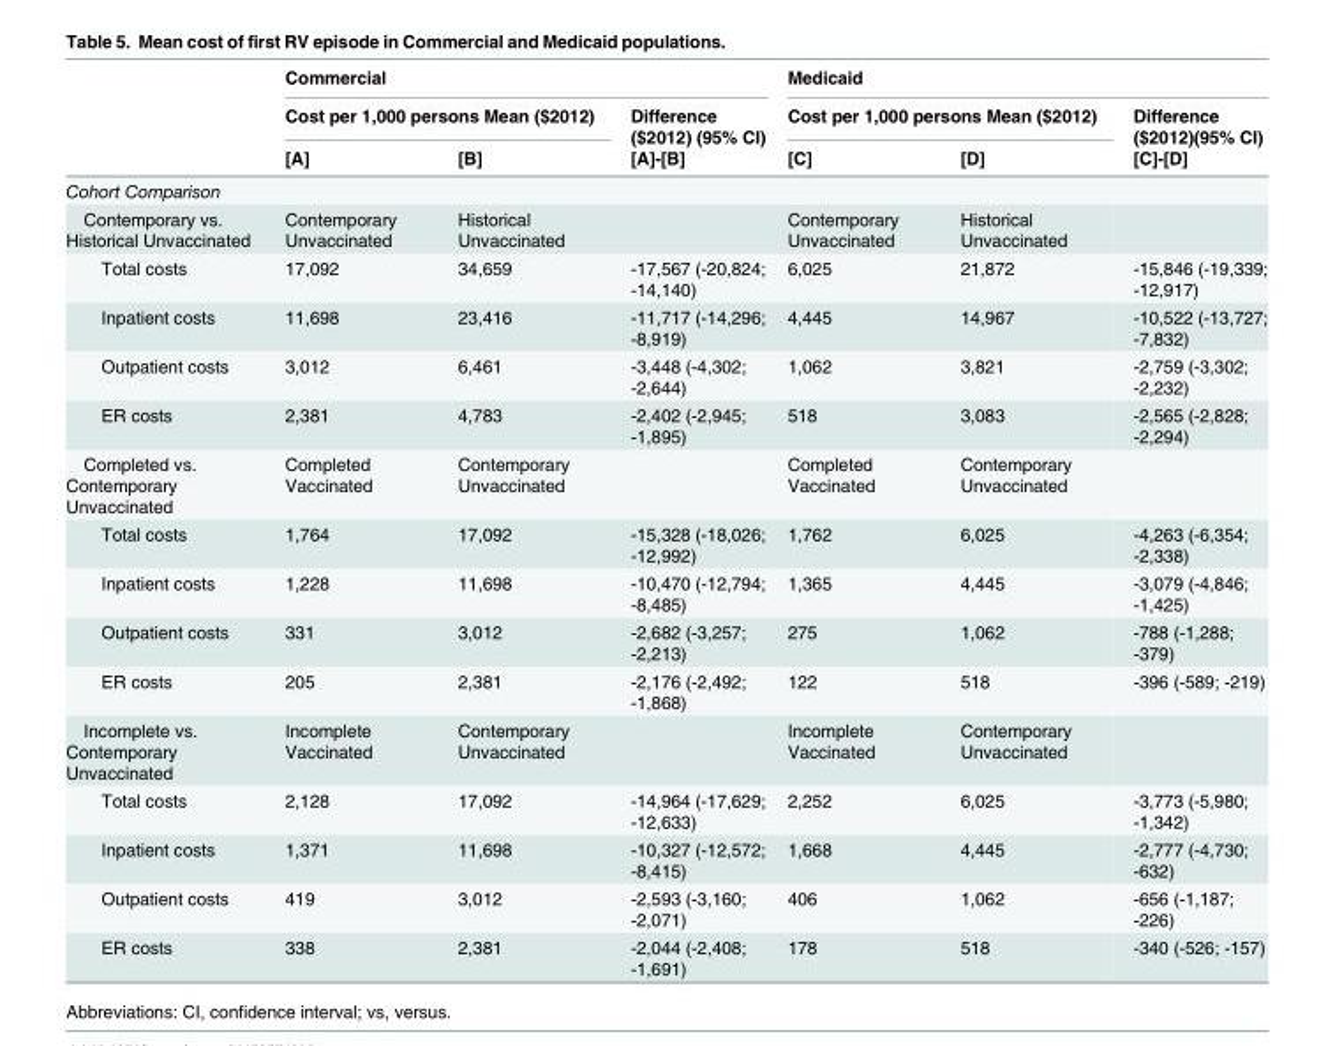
<table><thead><tr><td rowspan="3"></td><td colspan="3">Commercial</td><td colspan="3">Medicaid</td></tr><tr><td colspan="2">Cost per 1,000 persons Mean ($2012)</td><td rowspan="2">Difference ($2012) (95% CI) [A]-[B]</td><td colspan="2">Cost per 1,000 persons Mean ($2012)</td><td rowspan="2">Difference ($2012)(95% CI) [C]-[D]</td></tr><tr><td>[A]</td><td>[B]</td><td>[C]</td><td>[D]</td></tr></thead><tbody><tr><td colspan="7">Cohort Comparison</td></tr><tr><td>Contemporary vs. Historical Unvaccinated</td><td>Contemporary Unvaccinated</td><td>Historical Unvaccinated</td><td></td><td>Contemporary Unvaccinated</td><td>Historical Unvaccinated</td><td></td></tr><tr><td>Total costs</td><td>17,092</td><td>34,659</td><td>-17,567 (-20,824; -14,140)</td><td>6,025</td><td>21,872</td><td>-15,846 (-19,339; -12,917)</td></tr><tr><td>Inpatient costs</td><td>11,698</td><td>23,416</td><td>-11,717 (-14,296; -8,919)</td><td>4,445</td><td>14,967</td><td>-10,522 (-13,727; -7,832)</td></tr><tr><td>Outpatient costs</td><td>3,012</td><td>6,461</td><td>-3,448 (-4,302; -2,644)</td><td>1,062</td><td>3,821</td><td>-2,759 (-3,302; -2,232)</td></tr><tr><td>ER costs</td><td>2,381</td><td>4,783</td><td>-2,402 (-2,945; -1,895)</td><td>518</td><td>3,083</td><td>-2,565 (-2,828; -2,294)</td></tr><tr><td>Completed vs. Contemporary Unvaccinated</td><td>Completed Vaccinated</td><td>Contemporary Unvaccinated</td><td></td><td>Completed Vaccinated</td><td>Contemporary Unvaccinated</td><td></td></tr><tr><td>Total costs</td><td>1,764</td><td>17,092</td><td>-15,328 (-18,026; -12,992)</td><td>1,762</td><td>6,025</td><td>-4,263 (-6,354; -2,338)</td></tr><tr><td>Inpatient costs</td><td>1,228</td><td>11,698</td><td>-10,470 (-12,794; -8,485)</td><td>1,365</td><td>4,445</td><td>-3,079 (-4,846; -1,425)</td></tr><tr><td>Outpatient costs</td><td>331</td><td>3,012</td><td>-2,682 (-3,257; -2,213)</td><td>275</td><td>1,062</td><td>-788 (-1,288; -379)</td></tr><tr><td>ER costs</td><td>205</td><td>2,381</td><td>-2,176 (-2,492; -1,868)</td><td>122</td><td>518</td><td>-396 (-589; -219)</td></tr><tr><td>Incomplete vs. Contemporary Unvaccinated</td><td>Incomplete Vaccinated</td><td>Contemporary Unvaccinated</td><td></td><td>Incomplete Vaccinated</td><td>Contemporary Unvaccinated</td><td></td></tr><tr><td>Total costs</td><td>2,128</td><td>17,092</td><td>-14,964 (-17,629; -12,633)</td><td>2,252</td><td>6,025</td><td>-3,773 (-5,980; -1,342)</td></tr><tr><td>Inpatient costs</td><td>1,371</td><td>11,698</td><td>-10,327 (-12,572; -8,415)</td><td>1,668</td><td>4,445</td><td>-2,777 (-4,730; -632)</td></tr><tr><td>Outpatient costs</td><td>419</td><td>3,012</td><td>-2,593 (-3,160; -2,071)</td><td>406</td><td>1,062</td><td>-656 (-1,187; -226)</td></tr><tr><td>ER costs</td><td>338</td><td>2,381</td><td>-2,044 (-2,408; -1,691)</td><td>178</td><td>518</td><td>-340 (-526; -157)</td></tr></tbody></table>